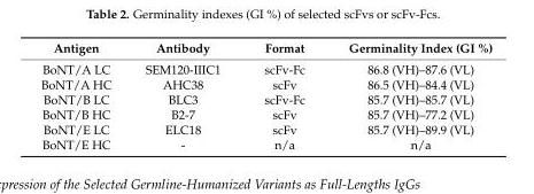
<table><thead><tr><td>Antigen</td><td>Antibody</td><td>Format</td><td>Germinality Index (GI %)</td></tr></thead><tbody><tr><td>BoNT/A LC</td><td>SEM120-IIIC1</td><td>scFv-Fc</td><td>86.8 (VH)–87.6 (VL)</td></tr><tr><td>BoNT/A HC</td><td>AHC38</td><td>scFv</td><td>86.5 (VH)–84.4 (VL)</td></tr><tr><td>BoNT/B LC</td><td>BLC3</td><td>scFv-Fc</td><td>85.7 (VH)–85.7 (VL)</td></tr><tr><td>BoNT/B HC</td><td>B2-7</td><td>scFv</td><td>85.7 (VH)–77.2 (VL)</td></tr><tr><td>BoNT/E LC</td><td>ELC18</td><td>scFv</td><td>85.7 (VH)–89.9 (VL)</td></tr><tr><td>BoNT/E HC</td><td>-</td><td>n/a</td><td>n/a</td></tr></tbody></table>